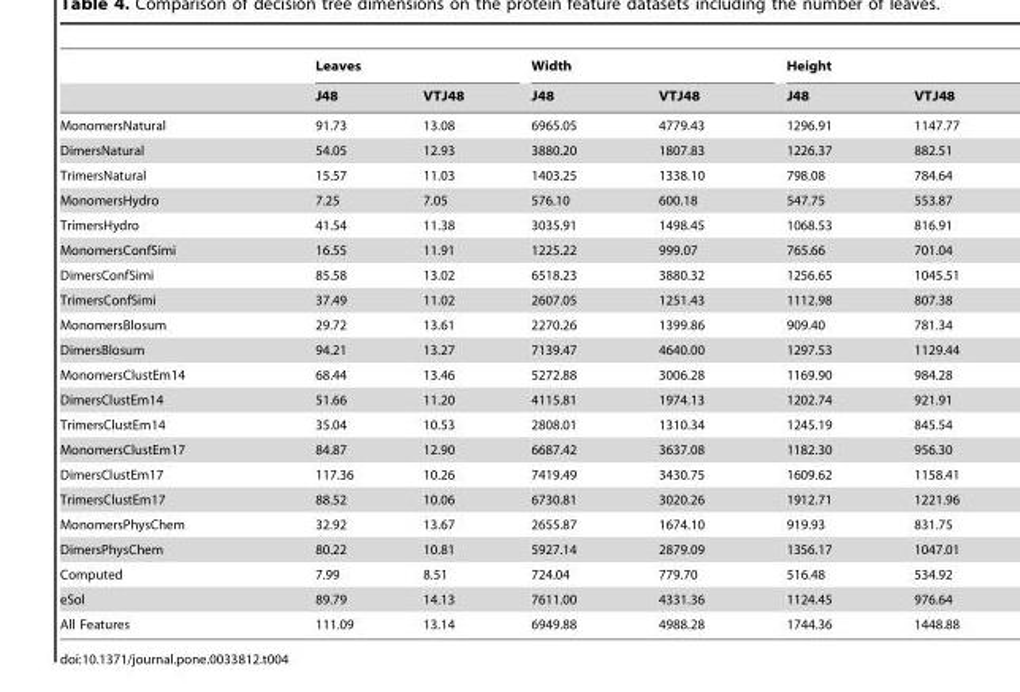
<table><thead><tr><td rowspan="2"></td><td colspan="2">Leaves</td><td colspan="2">Width</td><td colspan="2">Height</td></tr><tr><td>J48</td><td>VTJ48</td><td>J48</td><td>VTJ48</td><td>J48</td><td>VTJ48</td></tr></thead><tbody><tr><td>MonomersNatural</td><td>91.73</td><td>13.08</td><td>6965.05</td><td>4779.43</td><td>1296.91</td><td>1147.77</td></tr><tr><td>DimersNatural</td><td>54.05</td><td>12.93</td><td>3880.20</td><td>1807.83</td><td>1226.37</td><td>882.51</td></tr><tr><td>TrimersNatural</td><td>15.57</td><td>11.03</td><td>1403.25</td><td>1338.10</td><td>798.08</td><td>784.64</td></tr><tr><td>MonomersHydro</td><td>7.25</td><td>7.05</td><td>576.10</td><td>600.18</td><td>547.75</td><td>553.87</td></tr><tr><td>TrimersHydro</td><td>41.54</td><td>11.38</td><td>3035.91</td><td>1498.45</td><td>1068.53</td><td>816.91</td></tr><tr><td>MonomersConfSimi</td><td>16.55</td><td>11.91</td><td>1225.22</td><td>999.07</td><td>765.66</td><td>701.04</td></tr><tr><td>DimersConfSimi</td><td>85.58</td><td>13.02</td><td>6518.23</td><td>3880.32</td><td>1256.65</td><td>1045.51</td></tr><tr><td>TrimersConfSimi</td><td>37.49</td><td>11.02</td><td>2607.05</td><td>1251.43</td><td>1112.98</td><td>807.38</td></tr><tr><td>MonomersBlosum</td><td>29.72</td><td>13.61</td><td>2270.26</td><td>1399.86</td><td>909.40</td><td>781.34</td></tr><tr><td>DimersBlosum</td><td>94.21</td><td>13.27</td><td>7139.47</td><td>4640.00</td><td>1297.53</td><td>1129.44</td></tr><tr><td>MonomersClustEm14</td><td>68.44</td><td>13.46</td><td>5272.88</td><td>3006.28</td><td>1169.90</td><td>984.28</td></tr><tr><td>DimersClustEm14</td><td>51.66</td><td>11.20</td><td>4115.81</td><td>1974.13</td><td>1202.74</td><td>921.91</td></tr><tr><td>TrimersClustEm14</td><td>35.04</td><td>10.53</td><td>2808.01</td><td>1310.34</td><td>1245.19</td><td>845.54</td></tr><tr><td>MonomersClustEm17</td><td>84.87</td><td>12.90</td><td>6687.42</td><td>3637.08</td><td>1182.30</td><td>956.30</td></tr><tr><td>DimersClustEm17</td><td>117.36</td><td>10.26</td><td>7419.49</td><td>3430.75</td><td>1609.62</td><td>1158.41</td></tr><tr><td>TrimersClustEm17</td><td>88.52</td><td>10.06</td><td>6730.81</td><td>3020.26</td><td>1912.71</td><td>1221.96</td></tr><tr><td>MonomersPhysChem</td><td>32.92</td><td>13.67</td><td>2655.87</td><td>1674.10</td><td>919.93</td><td>831.75</td></tr><tr><td>DimersPhysChem</td><td>80.22</td><td>10.81</td><td>5927.14</td><td>2879.09</td><td>1356.17</td><td>1047.01</td></tr><tr><td>Computed</td><td>7.99</td><td>8.51</td><td>724.04</td><td>779.70</td><td>516.48</td><td>534.92</td></tr><tr><td>eSol</td><td>89.79</td><td>14.13</td><td>7611.00</td><td>4331.36</td><td>1124.45</td><td>976.64</td></tr><tr><td>All Features</td><td>111.09</td><td>13.14</td><td>6949.88</td><td>4988.28</td><td>1744.36</td><td>1448.88</td></tr></tbody></table>